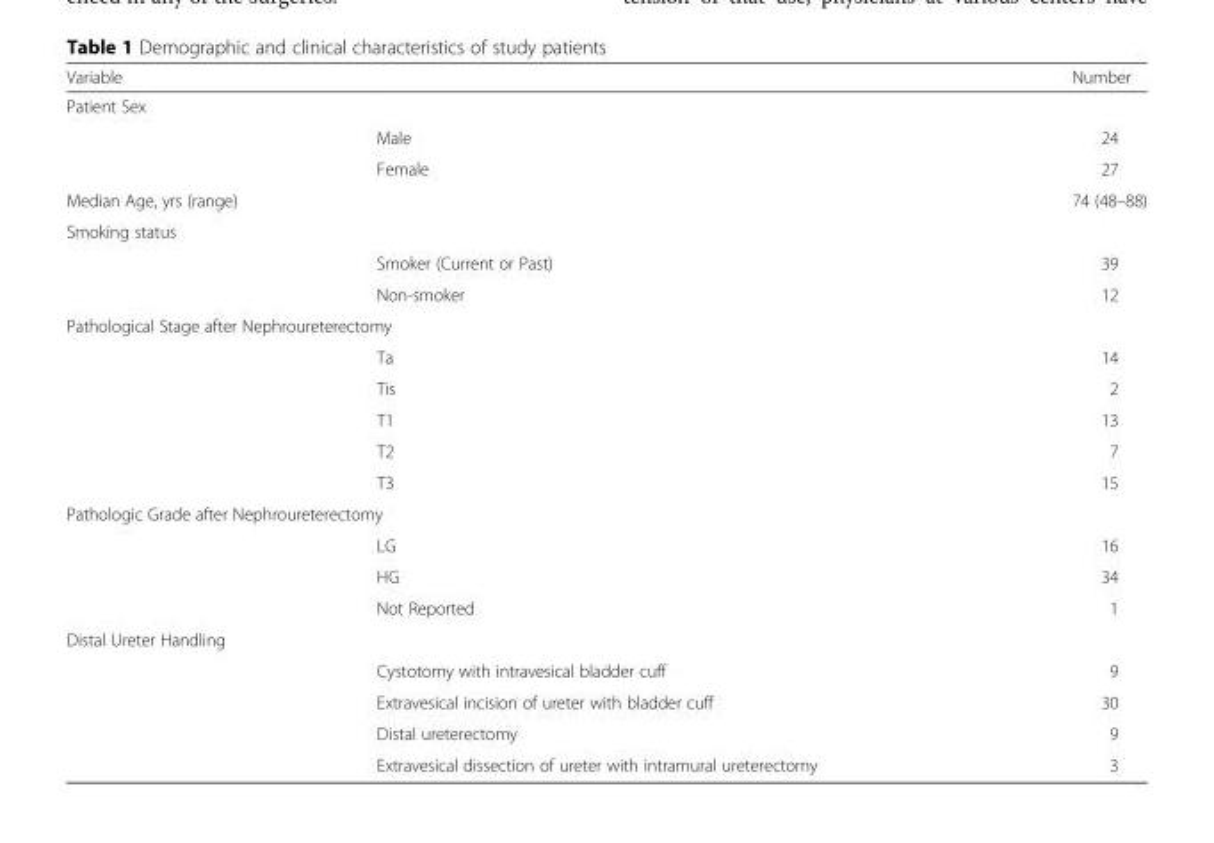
<table><thead><tr><td>Variable</td><td></td><td>Number</td></tr></thead><tbody><tr><td colspan="3">Patient Sex</td></tr><tr><td></td><td>Male</td><td>24</td></tr><tr><td></td><td>Female</td><td>27</td></tr><tr><td colspan="2">Median Age, yrs (range)</td><td>74 (48–88)</td></tr><tr><td colspan="3">Smoking status</td></tr><tr><td></td><td>Smoker (Current or Past)</td><td>39</td></tr><tr><td></td><td>Non-smoker</td><td>12</td></tr><tr><td colspan="3">Pathological Stage after Nephroureterectomy</td></tr><tr><td></td><td>Ta</td><td>14</td></tr><tr><td></td><td>Tis</td><td>2</td></tr><tr><td></td><td>T1</td><td>13</td></tr><tr><td></td><td>T2</td><td>7</td></tr><tr><td></td><td>T3</td><td>15</td></tr><tr><td colspan="3">Pathologic Grade after Nephroureterectomy</td></tr><tr><td></td><td>LG</td><td>16</td></tr><tr><td></td><td>HG</td><td>34</td></tr><tr><td></td><td>Not Reported</td><td>1</td></tr><tr><td colspan="3">Distal Ureter Handling</td></tr><tr><td></td><td>Cystotomy with intravesical bladder cuff</td><td>9</td></tr><tr><td></td><td>Extravesical incision of ureter with bladder cuff</td><td>30</td></tr><tr><td></td><td>Distal ureterectomy</td><td>9</td></tr><tr><td></td><td>Extravesical dissection of ureter with intramural ureterectomy</td><td>3</td></tr></tbody></table>